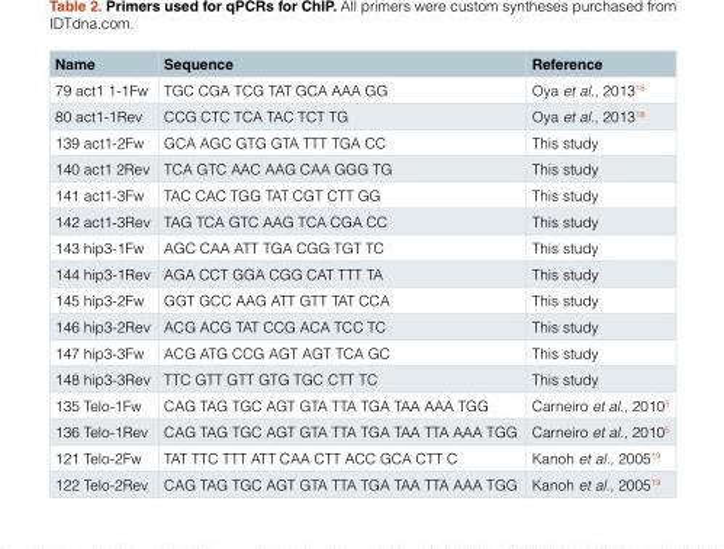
<table><thead><tr><td>Name</td><td>Sequence</td><td>Reference</td></tr></thead><tbody><tr><td>79 act1 1-1Fw</td><td>TGC CGA TCG TAT GCA AAA GG</td><td>Oya et al., 2013<sup>18</sup></td></tr><tr><td>80 act1-1Rev</td><td>CCG CTC TCA TAC TCT TG</td><td>Oya et al., 2013<sup>18</sup></td></tr><tr><td>139 act1-2Fw</td><td>GCA AGC GTG GTA TTT TGA CC</td><td>This study</td></tr><tr><td>140 act1 2Rev</td><td>TCA GTC AAC AAG CAA GGG TG</td><td>This study</td></tr><tr><td>141 act1-3Fw</td><td>TAC CAC TGG TAT CGT CTT GG</td><td>This study</td></tr><tr><td>142 act1-3Rev</td><td>TAG TCA GTC AAG TCA CGA CC</td><td>This study</td></tr><tr><td>143 hip3-1Fw</td><td>AGC CAA ATT TGA CGG TGT TC</td><td>This study</td></tr><tr><td>144 hip3-1Rev</td><td>AGA CCT GGA CGG CAT TTT TA</td><td>This study</td></tr><tr><td>145 hip3-2Fw</td><td>GGT GCC AAG ATT GTT TAT CCA</td><td>This study</td></tr><tr><td>146 hip3-2Rev</td><td>ACG ACG TAT CCG ACA TCC TC</td><td>This study</td></tr><tr><td>147 hip3-3Fw</td><td>ACG ATG CCG AGT AGT TCA GC</td><td>This study</td></tr><tr><td>148 hip3-3Rev</td><td>TTC GTT GTT GTG TGC CTT TC</td><td>This study</td></tr><tr><td>135 Telo-1Fw</td><td>CAG TAG TGC AGT GTA TTA TGA TAA AAA TGG</td><td>Carneiro et al., 2010<sup>5</sup></td></tr><tr><td>136 Telo-1Rev</td><td>CAG TAG TGC AGT GTA TTA TGA TAA TTA AAA TGG</td><td>Carneiro et al., 2010<sup>5</sup></td></tr><tr><td>121 Telo-2Fw</td><td>TAT TTC TTT ATT CAA CTT ACC GCA CTT C</td><td>Kanoh et al., 2005<sup>19</sup></td></tr><tr><td>122 Telo-2Rev</td><td>CAG TAG TGC AGT GTA TTA TGA TAA TTA AAA TGG</td><td>Kanoh et al., 2005<sup>19</sup></td></tr></tbody></table>